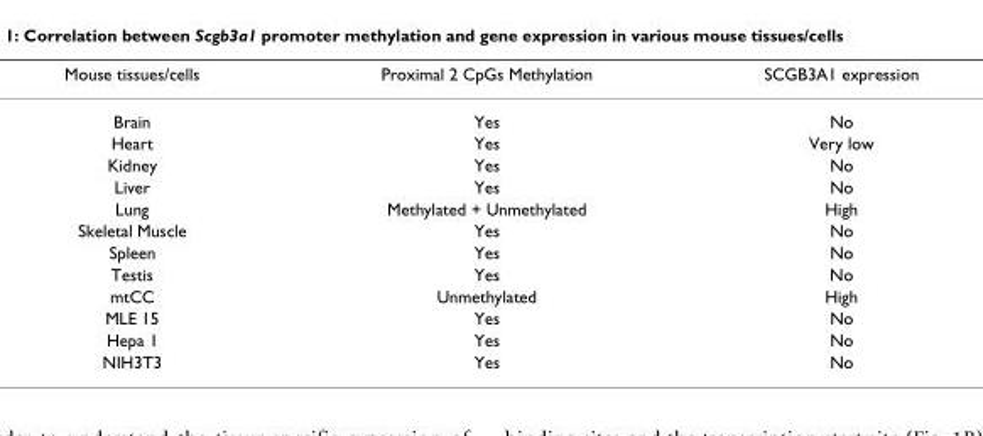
<table><thead><tr><td>Mouse tissues/cells</td><td>Proximal 2 CpGs Methylation</td><td>SCGB3A1 expression</td></tr></thead><tbody><tr><td>Brain</td><td>Yes</td><td>No</td></tr><tr><td>Heart</td><td>Yes</td><td>Very low</td></tr><tr><td>Kidney</td><td>Yes</td><td>No</td></tr><tr><td>Liver</td><td>Yes</td><td>No</td></tr><tr><td>Lung</td><td>Methylated + Unmethylated</td><td>High</td></tr><tr><td>Skeletal Muscle</td><td>Yes</td><td>No</td></tr><tr><td>Spleen</td><td>Yes</td><td>No</td></tr><tr><td>Testis</td><td>Yes</td><td>No</td></tr><tr><td>mtCC</td><td>Unmethylated</td><td>High</td></tr><tr><td>MLE 15</td><td>Yes</td><td>No</td></tr><tr><td>Hepa 1</td><td>Yes</td><td>No</td></tr><tr><td>NIH3T3</td><td>Yes</td><td>No</td></tr></tbody></table>